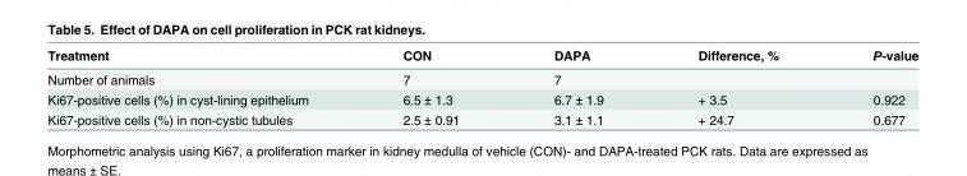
<table><thead><tr><td>Treatment</td><td>CON</td><td>DAPA</td><td>Difference, %</td><td>P-value</td></tr></thead><tbody><tr><td>Number of animals</td><td>7</td><td>7</td><td></td><td></td></tr><tr><td>Ki67-positive cells (%) in cyst-lining epithelium</td><td>6.5 ± 1.3</td><td>6.7 ± 1.9</td><td>+ 3.5</td><td>0.922</td></tr><tr><td>Ki67-positive cells (%) in non-cystic tubules</td><td>2.5 ± 0.91</td><td>3.1 ± 1.1</td><td>+ 24.7</td><td>0.677</td></tr></tbody></table>